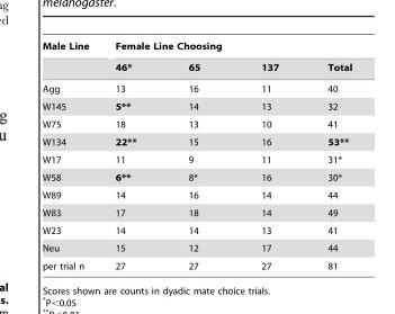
<table><thead><tr><td rowspan="2">Male Line</td><td colspan="4">Female Line Choosing</td></tr><tr><td>46*</td><td>65</td><td>137</td><td>Total</td></tr></thead><tbody><tr><td>Agg</td><td>13</td><td>16</td><td>11</td><td>40</td></tr><tr><td>W145</td><td>5**</td><td>14</td><td>13</td><td>32</td></tr><tr><td>W75</td><td>18</td><td>13</td><td>10</td><td>41</td></tr><tr><td>W134</td><td>22**</td><td>15</td><td>16</td><td>53**</td></tr><tr><td>W17</td><td>11</td><td>9</td><td>11</td><td>31*</td></tr><tr><td>W58</td><td>6**</td><td>8*</td><td>16</td><td>30*</td></tr><tr><td>W89</td><td>14</td><td>16</td><td>14</td><td>44</td></tr><tr><td>W83</td><td>17</td><td>18</td><td>14</td><td>49</td></tr><tr><td>W23</td><td>14</td><td>14</td><td>13</td><td>41</td></tr><tr><td>Neu</td><td>15</td><td>12</td><td>17</td><td>44</td></tr><tr><td>per trial n</td><td>27</td><td>27</td><td>27</td><td>81</td></tr></tbody></table>